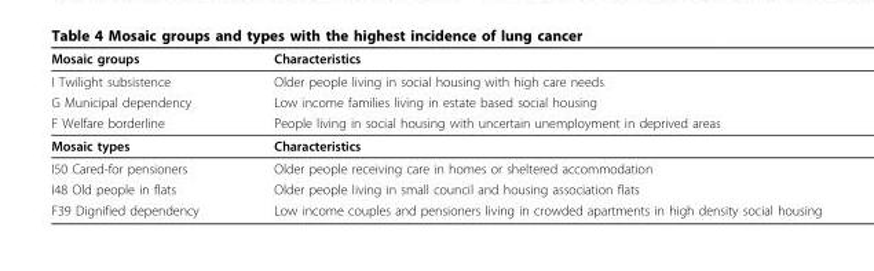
<table><thead><tr><td>Mosaic groups</td><td>Characteristics</td></tr></thead><tbody><tr><td>I Twilight subsistence</td><td>Older people living in social housing with high care needs</td></tr><tr><td>G Municipal dependency</td><td>Low income families living in estate based social housing</td></tr><tr><td>F Welfare borderline</td><td>People living in social housing with uncertain unemployment in deprived areas</td></tr><tr><td>Mosaic types</td><td>Characteristics</td></tr><tr><td>I50 Cared-for pensioners</td><td>Older people receiving care in homes or sheltered accommodation</td></tr><tr><td>I48 Old people in flats</td><td>Older people living in small council and housing association flats</td></tr><tr><td>F39 Dignified dependency</td><td>Low income couples and pensioners living in crowded apartments in high density social housing</td></tr></tbody></table>